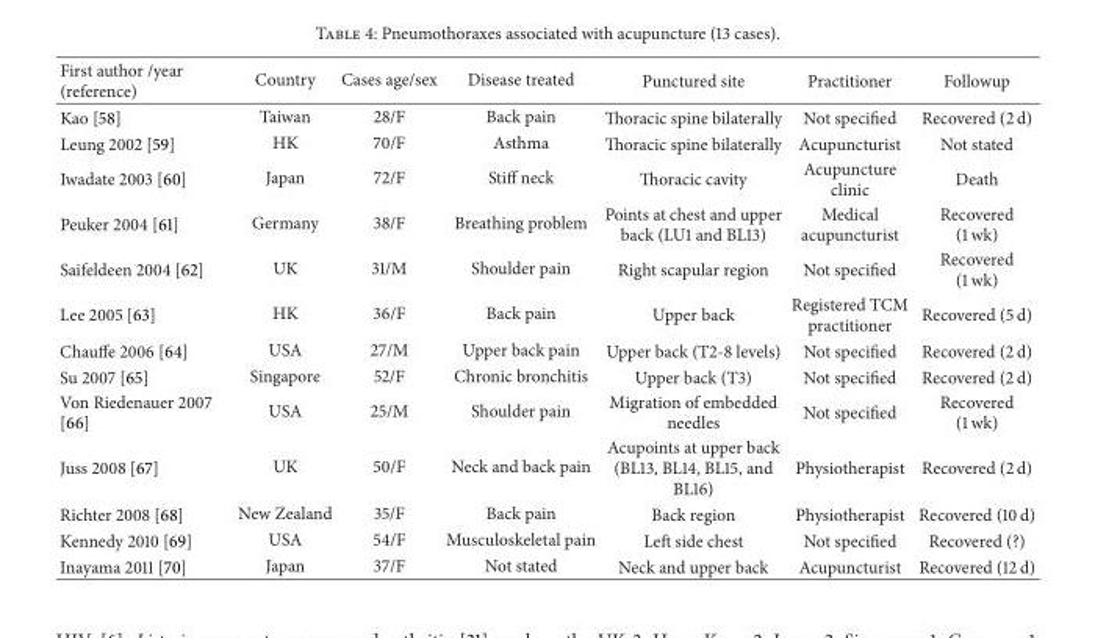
<table><thead><tr><td>First author /year (reference)</td><td>Country</td><td>Cases age/sex</td><td>Disease treated</td><td>Punctured site</td><td>Practitioner</td><td>Followup</td></tr></thead><tbody><tr><td>Kao [58]</td><td>Taiwan</td><td>28/F</td><td>Back pain</td><td>Thoracic spine bilaterally</td><td>Not specified</td><td>Recovered (2 d)</td></tr><tr><td>Leung 2002 [59]</td><td>HK</td><td>70/F</td><td>Asthma</td><td>Thoracic spine bilaterally</td><td>Acupuncturist</td><td>Not stated</td></tr><tr><td>Iwadate 2003 [60]</td><td>Japan</td><td>72/F</td><td>Stiff neck</td><td>Thoracic cavity</td><td>Acupuncture clinic</td><td>Death</td></tr><tr><td>Peuker 2004 [61]</td><td>Germany</td><td>38/F</td><td>Breathing problem</td><td>Points at chest and upper back (LU1 and BL13)</td><td>Medical acupuncturist</td><td>Recovered (1 wk)</td></tr><tr><td>Saifeldeen 2004 [62]</td><td>UK</td><td>31/M</td><td>Shoulder pain</td><td>Right scapular region</td><td>Not specified</td><td>Recovered (1 wk)</td></tr><tr><td>Lee 2005 [63]</td><td>HK</td><td>36/F</td><td>Back pain</td><td>Upper back</td><td>Registered TCM practitioner</td><td>Recovered (5 d)</td></tr><tr><td>Chauffe 2006 [64]</td><td>USA</td><td>27/M</td><td>Upper back pain</td><td>Upper back (T2-8 levels)</td><td>Not specified</td><td>Recovered (2 d)</td></tr><tr><td>Su 2007 [65]</td><td>Singapore</td><td>52/F</td><td>Chronic bronchitis</td><td>Upper back (T3)</td><td>Not specified</td><td>Recovered (2 d)</td></tr><tr><td>Von Riedenauer 2007 [66]</td><td>USA</td><td>25/M</td><td>Shoulder pain</td><td>Migration of embedded needles</td><td>Not specified</td><td>Recovered (1 wk)</td></tr><tr><td>Juss 2008 [67]</td><td>UK</td><td>50/F</td><td>Neck and back pain</td><td>Acupoints at upper back (BL13, BL14, BL15, and BL16)</td><td>Physiotherapist</td><td>Recovered (2 d)</td></tr><tr><td>Richter 2008 [68]</td><td>New Zealand</td><td>35/F</td><td>Back pain</td><td>Back region</td><td>Physiotherapist</td><td>Recovered (10 d)</td></tr><tr><td>Kennedy 2010 [69]</td><td>USA</td><td>54/F</td><td>Musculoskeletal pain</td><td>Left side chest</td><td>Not specified</td><td>Recovered (?)</td></tr><tr><td>Inayama 2011 [70]</td><td>Japan</td><td>37/F</td><td>Not stated</td><td>Neck and upper back</td><td>Acupuncturist</td><td>Recovered (12 d)</td></tr></tbody></table>